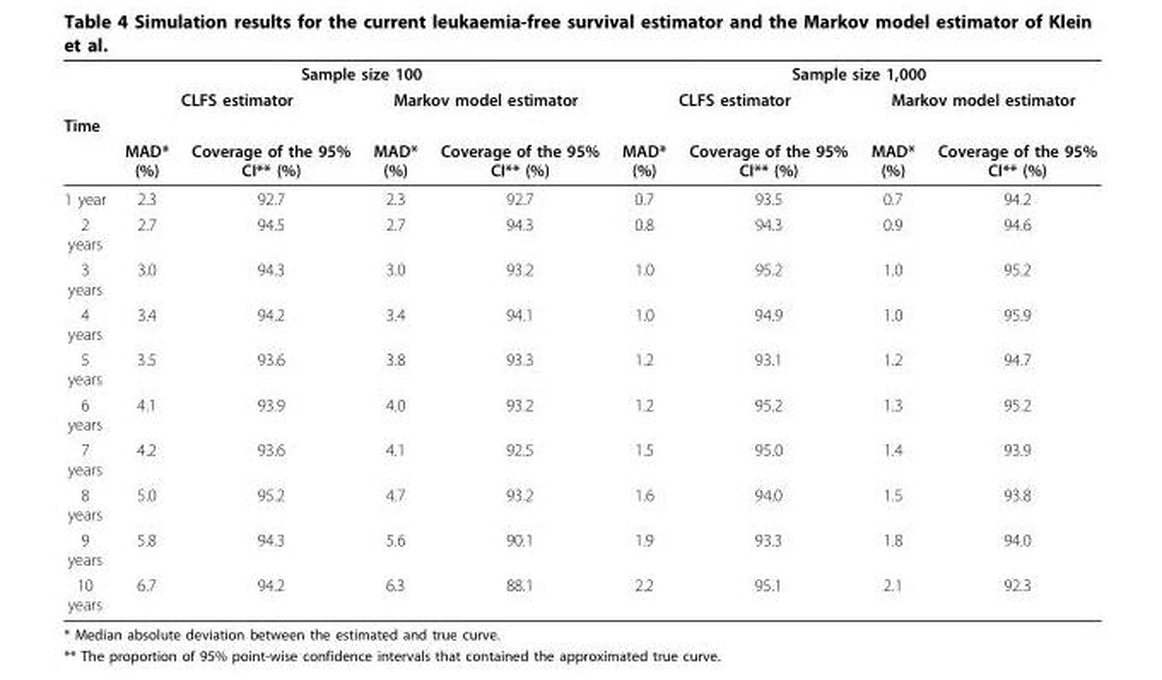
<table><thead><tr><td rowspan="4">Time</td><td colspan="4">Sample size 100</td><td colspan="4">Sample size 1,000</td></tr><tr><td colspan="2">CLFS estimator</td><td colspan="2">Markov model estimator</td><td colspan="2">CLFS estimator</td><td colspan="2">Markov model estimator</td></tr><tr><td rowspan="2">MAD* (%)</td><td rowspan="2">Coverage of the 95% CI** (%)</td><td rowspan="2">MAD* (%)</td><td rowspan="2">Coverage of the 95% CI** (%)</td><td rowspan="2">MAD* (%)</td><td rowspan="2">Coverage of the 95% CI** (%)</td><td rowspan="2">MAD* (%)</td><td rowspan="2">Coverage of the 95% CI** (%)</td></tr><tr></tr></thead><tbody><tr><td>1 year</td><td>2.3</td><td>92.7</td><td>2.3</td><td>92.7</td><td>0.7</td><td>93.5</td><td>0.7</td><td>94.2</td></tr><tr><td>2 years</td><td>2.7</td><td>94.5</td><td>2.7</td><td>94.3</td><td>0.8</td><td>94.3</td><td>0.9</td><td>94.6</td></tr><tr><td>3 years</td><td>3.0</td><td>94.3</td><td>3.0</td><td>93.2</td><td>1.0</td><td>95.2</td><td>1.0</td><td>95.2</td></tr><tr><td>4 years</td><td>3.4</td><td>94.2</td><td>3.4</td><td>94.1</td><td>1.0</td><td>94.9</td><td>1.0</td><td>95.9</td></tr><tr><td>5 years</td><td>3.5</td><td>93.6</td><td>3.8</td><td>93.3</td><td>1.2</td><td>93.1</td><td>1.2</td><td>94.7</td></tr><tr><td>6 years</td><td>4.1</td><td>93.9</td><td>4.0</td><td>93.2</td><td>1.2</td><td>95.2</td><td>1.3</td><td>95.2</td></tr><tr><td>7 years</td><td>4.2</td><td>93.6</td><td>4.1</td><td>92.5</td><td>1.5</td><td>95.0</td><td>1.4</td><td>93.9</td></tr><tr><td>8 years</td><td>5.0</td><td>95.2</td><td>4.7</td><td>93.2</td><td>1.6</td><td>94.0</td><td>1.5</td><td>93.8</td></tr><tr><td>9 years</td><td>5.8</td><td>94.3</td><td>5.6</td><td>90.1</td><td>1.9</td><td>93.3</td><td>1.8</td><td>94.0</td></tr><tr><td>10 years</td><td>6.7</td><td>94.2</td><td>6.3</td><td>88.1</td><td>2.2</td><td>95.1</td><td>2.1</td><td>92.3</td></tr></tbody></table>